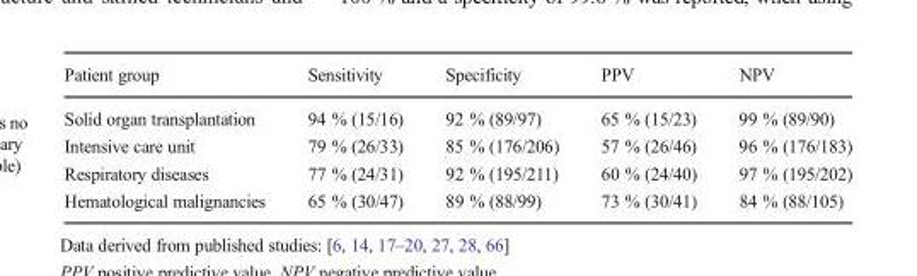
<table><thead><tr><td>Patient group</td><td>Sensitivity</td><td>Specificity</td><td>PPV</td><td>NPV</td></tr></thead><tbody><tr><td>Solid organ transplantation</td><td>94 % (15/16)</td><td>92 % (89/97)</td><td>65 % (15/23)</td><td>99 % (89/90)</td></tr><tr><td>Intensive care unit</td><td>79 % (26/33)</td><td>85 % (176/206)</td><td>57 % (26/46)</td><td>96 % (176/183)</td></tr><tr><td>Respiratory diseases</td><td>77 % (24/31)</td><td>92 % (195/211)</td><td>60 % (24/40)</td><td>97 % (195/202)</td></tr><tr><td>Hematological malignancies</td><td>65 % (30/47)</td><td>89 % (88/99)</td><td>73 % (30/41)</td><td>84 % (88/105)</td></tr></tbody></table>